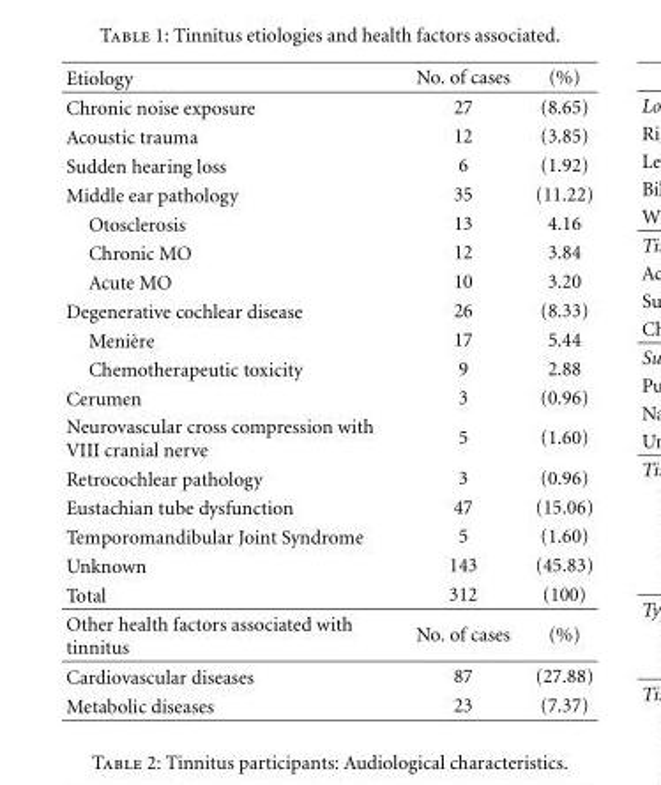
<table><thead><tr><td>Etiology</td><td>No. of cases</td><td>(%)</td></tr></thead><tbody><tr><td>Chronic noise exposure</td><td>27</td><td>(8.65)</td></tr><tr><td>Acoustic trauma</td><td>12</td><td>(3.85)</td></tr><tr><td>Sudden hearing loss</td><td>6</td><td>(1.92)</td></tr><tr><td>Middle ear pathology</td><td>35</td><td>(11.22)</td></tr><tr><td>Otosclerosis</td><td>13</td><td>4.16</td></tr><tr><td>Chronic MO</td><td>12</td><td>3.84</td></tr><tr><td>Acute MO</td><td>10</td><td>3.20</td></tr><tr><td>Degenerative cochlear disease</td><td>26</td><td>(8.33)</td></tr><tr><td>Meni`ere</td><td>17</td><td>5.44</td></tr><tr><td>Chemotherapeutic toxicity</td><td>9</td><td>2.88</td></tr><tr><td>Cerumen</td><td>3</td><td>(0.96)</td></tr><tr><td>Neurovascular cross compression with VIII cranial nerve</td><td>5</td><td>(1.60)</td></tr><tr><td>Retrocochlear pathology</td><td>3</td><td>(0.96)</td></tr><tr><td>Eustachian tube dysfunction</td><td>47</td><td>(15.06)</td></tr><tr><td>Temporomandibular Joint Syndrome</td><td>5</td><td>(1.60)</td></tr><tr><td>Unknown</td><td>143</td><td>(45.83)</td></tr><tr><td>Total</td><td>312</td><td>(100)</td></tr><tr><td>Other health factors associated with tinnitus</td><td>No. of cases</td><td>(%)</td></tr><tr><td>Cardiovascular diseases</td><td>87</td><td>(27.88)</td></tr><tr><td>Metabolic diseases</td><td>23</td><td>(7.37)</td></tr></tbody></table>